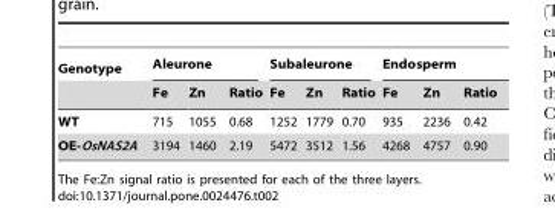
<table><thead><tr><td rowspan="2">Genotype</td><td colspan="3">Aleurone</td><td colspan="3">Subaleurone</td><td colspan="3">Endosperm</td></tr><tr><td>Fe</td><td>Zn</td><td>Ratio</td><td>Fe</td><td>Zn</td><td>Ratio</td><td>Fe</td><td>Zn</td><td>Ratio</td></tr></thead><tbody><tr><td>WT</td><td>715</td><td>1055</td><td>0.68</td><td>1252</td><td>1779</td><td>0.70</td><td>935</td><td>2236</td><td>0.42</td></tr><tr><td>OE-OsNAS2A</td><td>3194</td><td>1460</td><td>2.19</td><td>5472</td><td>3512</td><td>1.56</td><td>4268</td><td>4757</td><td>0.90</td></tr></tbody></table>